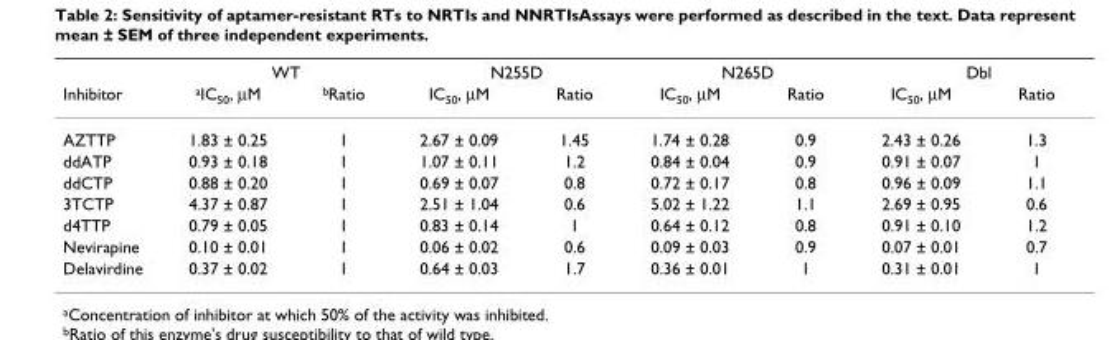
<table><thead><tr><td rowspan="2">Inhibitor</td><td colspan="2">WT</td><td colspan="2">N255D</td><td colspan="2">N265D</td><td colspan="2">Dbl</td></tr><tr><td><sup>a</sup>IC<sub>50</sub>, µM</td><td><sup>b</sup>Ratio</td><td>IC<sub>50</sub>, µM</td><td>Ratio</td><td>IC<sub>50</sub>, µM</td><td>Ratio</td><td>IC<sub>50</sub>, µM</td><td>Ratio</td></tr></thead><tbody><tr><td>AZTTP</td><td>1.83 ± 0.25</td><td>1</td><td>2.67 ± 0.09</td><td>1.45</td><td>1.74 ± 0.28</td><td>0.9</td><td>2.43 ± 0.26</td><td>1.3</td></tr><tr><td>ddATP</td><td>0.93 ± 0.18</td><td>1</td><td>1.07 ± 0.11</td><td>1.2</td><td>0.84 ± 0.04</td><td>0.9</td><td>0.91 ± 0.07</td><td>1</td></tr><tr><td>ddCTP</td><td>0.88 ± 0.20</td><td>1</td><td>0.69 ± 0.07</td><td>0.8</td><td>0.72 ± 0.17</td><td>0.8</td><td>0.96 ± 0.09</td><td>1.1</td></tr><tr><td>3TCTP</td><td>4.37 ± 0.87</td><td>1</td><td>2.51 ± 1.04</td><td>0.6</td><td>5.02 ± 1.22</td><td>1.1</td><td>2.69 ± 0.95</td><td>0.6</td></tr><tr><td>d4TTP</td><td>0.79 ± 0.05</td><td>1</td><td>0.83 ± 0.14</td><td>1</td><td>0.64 ± 0.12</td><td>0.8</td><td>0.91 ± 0.10</td><td>1.2</td></tr><tr><td>Nevirapine</td><td>0.10 ± 0.01</td><td>1</td><td>0.06 ± 0.02</td><td>0.6</td><td>0.09 ± 0.03</td><td>0.9</td><td>0.07 ± 0.01</td><td>0.7</td></tr><tr><td>Delavirdine</td><td>0.37 ± 0.02</td><td>1</td><td>0.64 ± 0.03</td><td>1.7</td><td>0.36 ± 0.01</td><td>1</td><td>0.31 ± 0.01</td><td>1</td></tr></tbody></table>